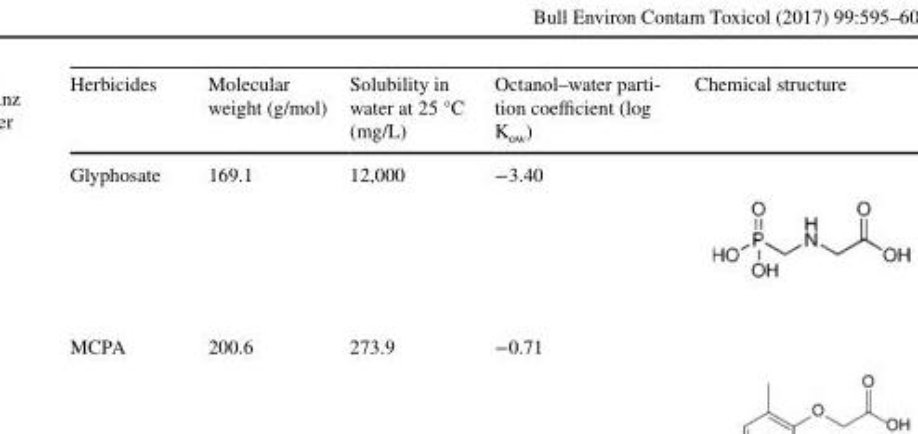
<table><thead><tr><td>Herbicides</td><td>Molecular weight (g/mol)</td><td>Solubility in water at 25 °C (mg/L)</td><td>Octanol–water parti- tion coefficient (log Kow)</td><td>Chemical structure</td></tr></thead><tbody><tr><td>Glyphosate</td><td>169.1</td><td>12,000</td><td>−3.40</td><td></td></tr><tr><td>MCPA</td><td>200.6</td><td>273.9</td><td>−0.71</td><td></td></tr></tbody></table>